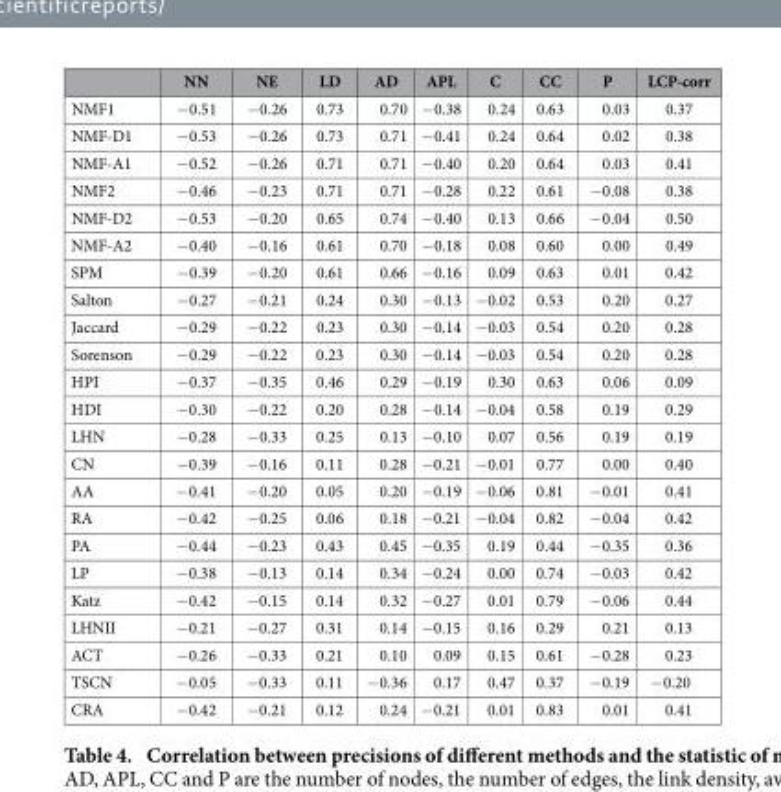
<table><thead><tr><td></td><td>NN</td><td>NE</td><td>LD</td><td>AD</td><td>APL</td><td>C</td><td>CC</td><td>P</td><td>LCP-corr</td></tr></thead><tbody><tr><td>NMF1</td><td>− 0.51</td><td>− 0.26</td><td>0.73</td><td>0.70</td><td>− 0.38</td><td>0.24</td><td>0.63</td><td>0.03</td><td>0.37</td></tr><tr><td>NMF-D1</td><td>− 0.53</td><td>− 0.26</td><td>0.73</td><td>0.71</td><td>− 0.41</td><td>0.24</td><td>0.64</td><td>0.02</td><td>0.38</td></tr><tr><td>NMF-A1</td><td>− 0.52</td><td>− 0.26</td><td>0.71</td><td>0.71</td><td>− 0.40</td><td>0.20</td><td>0.64</td><td>0.03</td><td>0.41</td></tr><tr><td>NMF2</td><td>− 0.46</td><td>− 0.23</td><td>0.71</td><td>0.71</td><td>− 0.28</td><td>0.22</td><td>0.61</td><td>− 0.08</td><td>0.38</td></tr><tr><td>NMF-D2</td><td>− 0.53</td><td>− 0.20</td><td>0.65</td><td>0.74</td><td>− 0.40</td><td>0.13</td><td>0.66</td><td>− 0.04</td><td>0.50</td></tr><tr><td>NMF-A2</td><td>− 0.40</td><td>− 0.16</td><td>0.61</td><td>0.70</td><td>− 0.18</td><td>0.08</td><td>0.60</td><td>0.00</td><td>0.49</td></tr><tr><td>SPM</td><td>− 0.39</td><td>− 0.20</td><td>0.61</td><td>0.66</td><td>− 0.16</td><td>0.09</td><td>0.63</td><td>0.01</td><td>0.42</td></tr><tr><td>Salton</td><td>− 0.27</td><td>− 0.21</td><td>0.24</td><td>0.30</td><td>− 0.13</td><td>− 0.02</td><td>0.53</td><td>0.20</td><td>0.27</td></tr><tr><td>Jaccard</td><td>− 0.29</td><td>− 0.22</td><td>0.23</td><td>0.30</td><td>− 0.14</td><td>− 0.03</td><td>0.54</td><td>0.20</td><td>0.28</td></tr><tr><td>Sorenson</td><td>− 0.29</td><td>− 0.22</td><td>0.23</td><td>0.30</td><td>− 0.14</td><td>− 0.03</td><td>0.54</td><td>0.20</td><td>0.28</td></tr><tr><td>HPI</td><td>− 0.37</td><td>− 0.35</td><td>0.46</td><td>0.29</td><td>− 0.19</td><td>0.30</td><td>0.63</td><td>0.06</td><td>0.09</td></tr><tr><td>HDI</td><td>− 0.30</td><td>− 0.22</td><td>0.20</td><td>0.28</td><td>− 0.14</td><td>− 0.04</td><td>0.58</td><td>0.19</td><td>0.29</td></tr><tr><td>LHN</td><td>− 0.28</td><td>− 0.33</td><td>0.25</td><td>0.13</td><td>− 0.10</td><td>0.07</td><td>0.56</td><td>0.19</td><td>0.19</td></tr><tr><td>CN</td><td>− 0.39</td><td>− 0.16</td><td>0.11</td><td>0.28</td><td>− 0.21</td><td>− 0.01</td><td>0.77</td><td>0.00</td><td>0.40</td></tr><tr><td>AA</td><td>− 0.41</td><td>− 0.20</td><td>0.05</td><td>0.20</td><td>− 0.19</td><td>− 0.06</td><td>0.81</td><td>− 0.01</td><td>0.41</td></tr><tr><td>RA</td><td>− 0.42</td><td>− 0.25</td><td>0.06</td><td>0.18</td><td>− 0.21</td><td>− 0.04</td><td>0.82</td><td>− 0.04</td><td>0.42</td></tr><tr><td>PA</td><td>− 0.44</td><td>− 0.23</td><td>0.43</td><td>0.45</td><td>− 0.35</td><td>0.19</td><td>0.44</td><td>− 0.35</td><td>0.36</td></tr><tr><td>LP</td><td>− 0.38</td><td>− 0.13</td><td>0.14</td><td>0.34</td><td>− 0.24</td><td>0.00</td><td>0.74</td><td>− 0.03</td><td>0.42</td></tr><tr><td>Katz</td><td>− 0.42</td><td>− 0.15</td><td>0.14</td><td>0.32</td><td>− 0.27</td><td>0.01</td><td>0.79</td><td>− 0.06</td><td>0.44</td></tr><tr><td>LHNII</td><td>− 0.21</td><td>− 0.27</td><td>0.31</td><td>0.14</td><td>− 0.15</td><td>0.16</td><td>0.29</td><td>0.21</td><td>0.13</td></tr><tr><td>ACT</td><td>− 0.26</td><td>− 0.33</td><td>0.21</td><td>0.10</td><td>0.09</td><td>0.15</td><td>0.61</td><td>− 0.28</td><td>0.23</td></tr><tr><td>TSCN</td><td>− 0.05</td><td>− 0.33</td><td>0.11</td><td>− 0.36</td><td>0.17</td><td>0.47</td><td>0.37</td><td>− 0.19</td><td>− 0.20</td></tr><tr><td>CRA</td><td>− 0.42</td><td>− 0.21</td><td>0.12</td><td>0.24</td><td>− 0.21</td><td>0.01</td><td>0.83</td><td>0.01</td><td>0.41</td></tr></tbody></table>